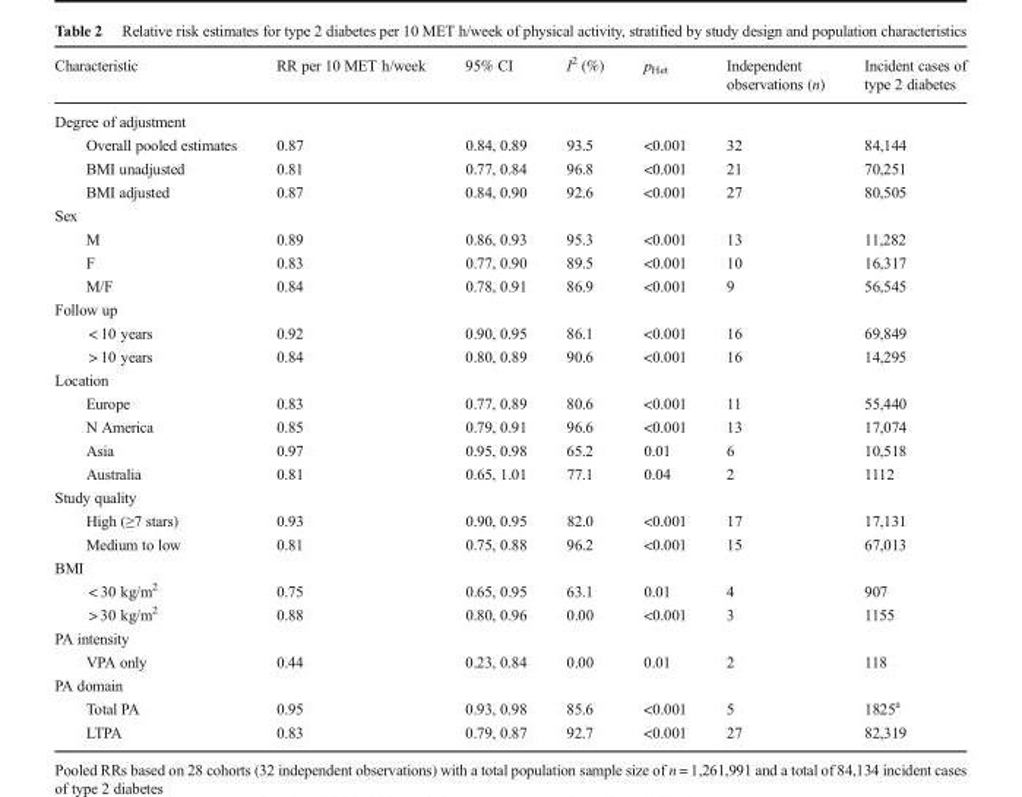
<table><thead><tr><td>Characteristic</td><td>RR per 10 MET h/week</td><td>95% CI</td><td>I<sup>2</sup> (%)</td><td>p<sub>Het</sub></td><td>Independent observations (n)</td><td>Incident cases of type 2 diabetes</td></tr></thead><tbody><tr><td colspan="7">Degree of adjustment</td></tr><tr><td>Overall pooled estimates</td><td>0.87</td><td>0.84, 0.89</td><td>93.5</td><td>&lt;0.001</td><td>32</td><td>84,144</td></tr><tr><td>BMI unadjusted</td><td>0.81</td><td>0.77, 0.84</td><td>96.8</td><td>&lt;0.001</td><td>21</td><td>70,251</td></tr><tr><td>BMI adjusted</td><td>0.87</td><td>0.84, 0.90</td><td>92.6</td><td>&lt;0.001</td><td>27</td><td>80,505</td></tr><tr><td colspan="7">Sex</td></tr><tr><td>M</td><td>0.89</td><td>0.86, 0.93</td><td>95.3</td><td>&lt;0.001</td><td>13</td><td>11,282</td></tr><tr><td>F</td><td>0.83</td><td>0.77, 0.90</td><td>89.5</td><td>&lt;0.001</td><td>10</td><td>16,317</td></tr><tr><td>M/F</td><td>0.84</td><td>0.78, 0.91</td><td>86.9</td><td>&lt;0.001</td><td>9</td><td>56,545</td></tr><tr><td colspan="7">Follow up</td></tr><tr><td>&lt; 10 years</td><td>0.92</td><td>0.90, 0.95</td><td>86.1</td><td>&lt;0.001</td><td>16</td><td>69,849</td></tr><tr><td>&gt; 10 years</td><td>0.84</td><td>0.80, 0.89</td><td>90.6</td><td>&lt;0.001</td><td>16</td><td>14,295</td></tr><tr><td colspan="7">Location</td></tr><tr><td>Europe</td><td>0.83</td><td>0.77, 0.89</td><td>80.6</td><td>&lt;0.001</td><td>11</td><td>55,440</td></tr><tr><td>N America</td><td>0.85</td><td>0.79, 0.91</td><td>96.6</td><td>&lt;0.001</td><td>13</td><td>17,074</td></tr><tr><td>Asia</td><td>0.97</td><td>0.95, 0.98</td><td>65.2</td><td>0.01</td><td>6</td><td>10,518</td></tr><tr><td>Australia</td><td>0.81</td><td>0.65, 1.01</td><td>77.1</td><td>0.04</td><td>2</td><td>1112</td></tr><tr><td colspan="7">Study quality</td></tr><tr><td>High (≥7 stars)</td><td>0.93</td><td>0.90, 0.95</td><td>82.0</td><td>&lt;0.001</td><td>17</td><td>17,131</td></tr><tr><td>Medium to low</td><td>0.81</td><td>0.75, 0.88</td><td>96.2</td><td>&lt;0.001</td><td>15</td><td>67,013</td></tr><tr><td colspan="7">BMI</td></tr><tr><td>&lt; 30 kg/m<sup>2</sup></td><td>0.75</td><td>0.65, 0.95</td><td>63.1</td><td>0.01</td><td>4</td><td>907</td></tr><tr><td>&gt; 30 kg/m<sup>2</sup></td><td>0.88</td><td>0.80, 0.96</td><td>0.00</td><td>&lt;0.001</td><td>3</td><td>1155</td></tr><tr><td colspan="7">PA intensity</td></tr><tr><td>VPA only</td><td>0.44</td><td>0.23, 0.84</td><td>0.00</td><td>0.01</td><td>2</td><td>118</td></tr><tr><td colspan="7">PA domain</td></tr><tr><td>Total PA</td><td>0.95</td><td>0.93, 0.98</td><td>85.6</td><td>&lt;0.001</td><td>5</td><td>1825<sup>a</sup></td></tr><tr><td>LTPA</td><td>0.83</td><td>0.79, 0.87</td><td>92.7</td><td>&lt;0.001</td><td>27</td><td>82,319</td></tr></tbody></table>